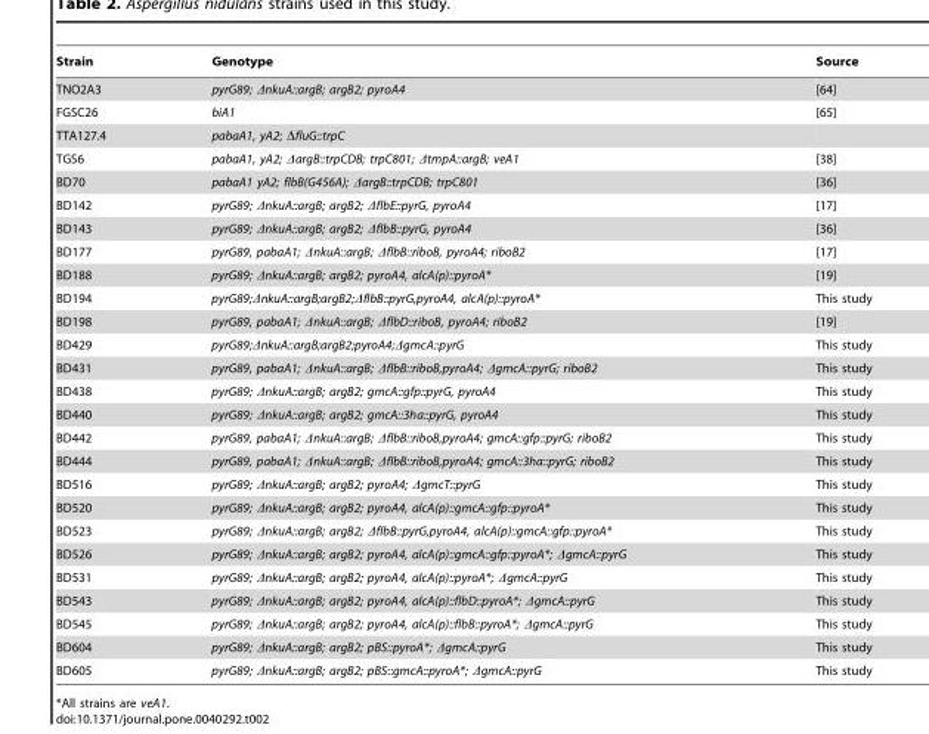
<table><thead><tr><td>Strain</td><td>Genotype</td><td>Source</td></tr></thead><tbody><tr><td>TNO2A3</td><td>pyrG89; ΔnkuA::argB; argB2; pyroA4</td><td>[64]</td></tr><tr><td>FGSC26</td><td>biA1</td><td>[65]</td></tr><tr><td>TTA127.4</td><td>pabaA1, yA2; ΔfluG::trpC</td><td></td></tr><tr><td>TGS6</td><td>pabaA1, yA2; ΔargB::trpCDB; trpC801; ΔtmpA::argB; veA1</td><td>[38]</td></tr><tr><td>BD70</td><td>pabaA1 yA2; flbB(G456A); ΔargB::trpCDB; trpC801</td><td>[36]</td></tr><tr><td>BD142</td><td>pyrG89; ΔnkuA::argB; argB2; ΔflbE::pyrG, pyroA4</td><td>[17]</td></tr><tr><td>BD143</td><td>pyrG89; ΔnkuA::argB; argB2; ΔflbB::pyrG, pyroA4</td><td>[36]</td></tr><tr><td>BD177</td><td>pyrG89, pabaA1; ΔnkuA::argB; ΔflbB::riboB, pyroA4; riboB2</td><td>[17]</td></tr><tr><td>BD188</td><td>pyrG89; ΔnkuA::argB; argB2; pyroA4, alcA(p)::pyroA*</td><td>[19]</td></tr><tr><td>BD194</td><td>pyrG89;ΔnkuA::argB;argB2;ΔflbB::pyrG,pyroA4, alcA(p)::pyroA*</td><td>This study</td></tr><tr><td>BD198</td><td>pyrG89, pabaA1; ΔnkuA::argB; ΔflbD::riboB, pyroA4; riboB2</td><td>[19]</td></tr><tr><td>BD429</td><td>pyrG89;ΔnkuA::argB;argB2;pyroA4;ΔgmcA::pyrG</td><td>This study</td></tr><tr><td>BD431</td><td>pyrG89, pabaA1; ΔnkuA::argB; ΔflbB::riboB,pyroA4; ΔgmcA::pyrG; riboB2</td><td>This study</td></tr><tr><td>BD438</td><td>pyrG89; ΔnkuA::argB; argB2; gmcA::gfp::pyrG, pyroA4</td><td>This study</td></tr><tr><td>BD440</td><td>pyrG89; ΔnkuA::argB; argB2; gmcA::3ha::pyrG, pyroA4</td><td>This study</td></tr><tr><td>BD442</td><td>pyrG89, pabaA1; ΔnkuA::argB; ΔflbB::riboB,pyroA4; gmcA::gfp::pyrG; riboB2</td><td>This study</td></tr><tr><td>BD444</td><td>pyrG89, pabaA1; ΔnkuA::argB; ΔflbB::riboB,pyroA4; gmcA::3ha::pyrG; riboB2</td><td>This study</td></tr><tr><td>BD516</td><td>pyrG89; ΔnkuA::argB; argB2; pyroA4; ΔgmcT::pyrG</td><td>This study</td></tr><tr><td>BD520</td><td>pyrG89; ΔnkuA::argB; argB2; pyroA4, alcA(p)::gmcA::gfp::pyroA*</td><td>This study</td></tr><tr><td>BD523</td><td>pyrG89; ΔnkuA::argB; argB2; ΔflbB::pyrG,pyroA4, alcA(p)::gmcA::gfp::pyroA*</td><td>This study</td></tr><tr><td>BD526</td><td>pyrG89; ΔnkuA::argB; argB2; pyroA4, alcA(p)::gmcA::gfp::pyroA*; ΔgmcA::pyrG</td><td>This study</td></tr><tr><td>BD531</td><td>pyrG89; ΔnkuA::argB; argB2; pyroA4, alcA(p)::pyroA*; ΔgmcA::pyrG</td><td>This study</td></tr><tr><td>BD543</td><td>pyrG89; ΔnkuA::argB; argB2; pyroA4, alcA(p)::flbD::pyroA*; ΔgmcA::pyrG</td><td>This study</td></tr><tr><td>BD545</td><td>pyrG89; ΔnkuA::argB; argB2; pyroA4, alcA(p)::flbB::pyroA*; ΔgmcA::pyrG</td><td>This study</td></tr><tr><td>BD604</td><td>pyrG89; ΔnkuA::argB; argB2; pBS::pyroA*; ΔgmcA::pyrG</td><td>This study</td></tr><tr><td>BD605</td><td>pyrG89; ΔnkuA::argB; argB2; pBS::gmcA::pyroA*; ΔgmcA::pyrG</td><td>This study</td></tr></tbody></table>